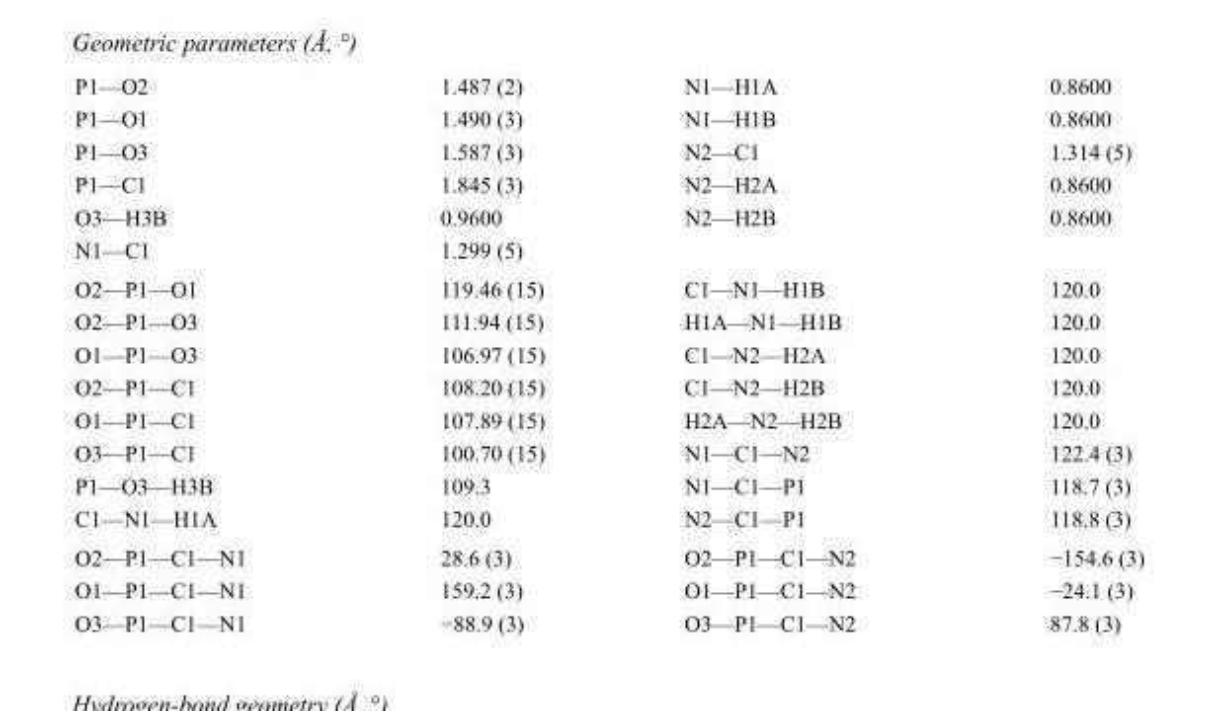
<table><tbody><tr><td>P1—O2</td><td>1.487 (2)</td><td>N1—H1A</td><td>0.8600</td></tr><tr><td>P1—O1</td><td>1.490 (3)</td><td>N1—H1B</td><td>0.8600</td></tr><tr><td>P1—O3</td><td>1.587 (3)</td><td>N2—C1</td><td>1.314 (5)</td></tr><tr><td>P1—C1</td><td>1.845 (3)</td><td>N2—H2A</td><td>0.8600</td></tr><tr><td>O3—H3B</td><td>0.9600</td><td>N2—H2B</td><td>0.8600</td></tr><tr><td>N1—C1</td><td>1.299 (5)</td><td></td><td></td></tr><tr><td>O2—P1—O1</td><td>119.46 (15)</td><td>C1—N1—H1B</td><td>120.0</td></tr><tr><td>O2—P1—O3</td><td>111.94 (15)</td><td>H1A—N1—H1B</td><td>120.0</td></tr><tr><td>O1—P1—O3</td><td>106.97 (15)</td><td>C1—N2—H2A</td><td>120.0</td></tr><tr><td>O2—P1—C1</td><td>108.20 (15)</td><td>C1—N2—H2B</td><td>120.0</td></tr><tr><td>O1—P1—C1</td><td>107.89 (15)</td><td>H2A—N2—H2B</td><td>120.0</td></tr><tr><td>O3—P1—C1</td><td>100.70 (15)</td><td>N1—C1—N2</td><td>122.4 (3)</td></tr><tr><td>P1—O3—H3B</td><td>109.3</td><td>N1—C1—P1</td><td>118.7 (3)</td></tr><tr><td>C1—N1—H1A</td><td>120.0</td><td>N2—C1—P1</td><td>118.8 (3)</td></tr><tr><td>O2—P1—C1—N1</td><td>28.6 (3)</td><td>O2—P1—C1—N2</td><td>−154.6 (3)</td></tr><tr><td>O1—P1—C1—N1</td><td>159.2 (3)</td><td>O1—P1—C1—N2</td><td>−24.1 (3)</td></tr><tr><td>O3—P1—C1—N1</td><td>−88.9 (3)</td><td>O3—P1—C1—N2</td><td>87.8 (3)</td></tr></tbody></table>